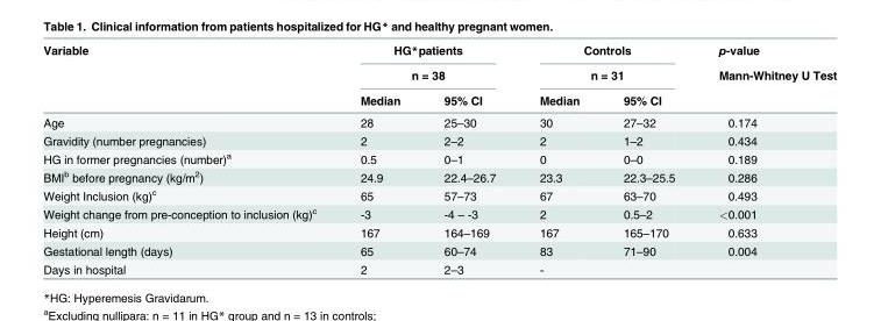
<table><thead><tr><td rowspan="3">Variable</td><td rowspan="2" colspan="2">HG*patients n = 38</td><td rowspan="2" colspan="2">Controls n = 31</td><td rowspan="3">p-value Mann-Whitney U Test</td></tr><tr></tr><tr><td>Median</td><td>95% CI</td><td>Median</td><td>95% CI</td></tr></thead><tbody><tr><td>Age</td><td>28</td><td>25–30</td><td>30</td><td>27–32</td><td>0.174</td></tr><tr><td>Gravidity (number pregnancies)</td><td>2</td><td>2–2</td><td>2</td><td>1–2</td><td>0.434</td></tr><tr><td>HG in former pregnancies (number)<sup>a</sup></td><td>0.5</td><td>0–1</td><td>0</td><td>0–0</td><td>0.189</td></tr><tr><td>BMI<sup>b</sup> before pregnancy (kg/m<sup>2</sup>)</td><td>24.9</td><td>22.4–26.7</td><td>23.3</td><td>22.3–25.5</td><td>0.286</td></tr><tr><td>Weight Inclusion (kg)<sup>c</sup></td><td>65</td><td>57–73</td><td>67</td><td>63–70</td><td>0.493</td></tr><tr><td>Weight change from pre-conception to inclusion (kg)<sup>c</sup></td><td>-3</td><td>-4 – -3</td><td>2</td><td>0.5–2</td><td>&lt;0.001</td></tr><tr><td>Height (cm)</td><td>167</td><td>164–169</td><td>167</td><td>165–170</td><td>0.633</td></tr><tr><td>Gestational length (days)</td><td>65</td><td>60–74</td><td>83</td><td>71–90</td><td>0.004</td></tr><tr><td>Days in hospital</td><td>2</td><td>2–3</td><td>-</td><td></td><td></td></tr></tbody></table>